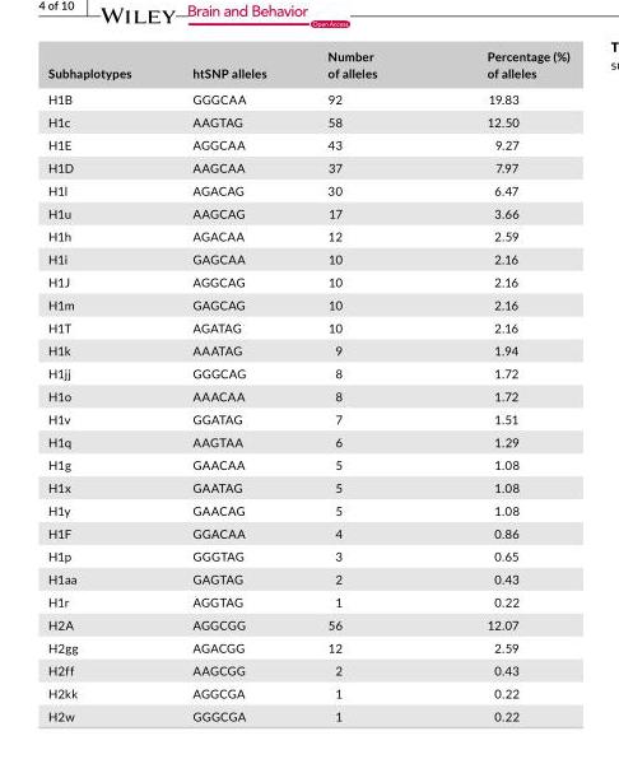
<table><thead><tr><td>Subhaplotypes</td><td>htSNP alleles</td><td>Number of alleles</td><td>Percentage (%) of alleles</td></tr></thead><tbody><tr><td>H1B</td><td>GGGCAA</td><td>92</td><td>19.83</td></tr><tr><td>H1c</td><td>AAGTAG</td><td>58</td><td>12.50</td></tr><tr><td>H1E</td><td>AGGCAA</td><td>43</td><td>9.27</td></tr><tr><td>H1D</td><td>AAGCAA</td><td>37</td><td>7.97</td></tr><tr><td>H1l</td><td>AGACAG</td><td>30</td><td>6.47</td></tr><tr><td>H1u</td><td>AAGCAG</td><td>17</td><td>3.66</td></tr><tr><td>H1h</td><td>AGACAA</td><td>12</td><td>2.59</td></tr><tr><td>H1i</td><td>GAGCAA</td><td>10</td><td>2.16</td></tr><tr><td>H1J</td><td>AGGCAG</td><td>10</td><td>2.16</td></tr><tr><td>H1m</td><td>GAGCAG</td><td>10</td><td>2.16</td></tr><tr><td>H1T</td><td>AGATAG</td><td>10</td><td>2.16</td></tr><tr><td>H1k</td><td>AAATAG</td><td>9</td><td>1.94</td></tr><tr><td>H1jj</td><td>GGGCAG</td><td>8</td><td>1.72</td></tr><tr><td>H1o</td><td>AAACAA</td><td>8</td><td>1.72</td></tr><tr><td>H1v</td><td>GGATAG</td><td>7</td><td>1.51</td></tr><tr><td>H1q</td><td>AAGTAA</td><td>6</td><td>1.29</td></tr><tr><td>H1g</td><td>GAACAA</td><td>5</td><td>1.08</td></tr><tr><td>H1x</td><td>GAATAG</td><td>5</td><td>1.08</td></tr><tr><td>H1y</td><td>GAACAG</td><td>5</td><td>1.08</td></tr><tr><td>H1F</td><td>GGACAA</td><td>4</td><td>0.86</td></tr><tr><td>H1p</td><td>GGGTAG</td><td>3</td><td>0.65</td></tr><tr><td>H1aa</td><td>GAGTAG</td><td>2</td><td>0.43</td></tr><tr><td>H1r</td><td>AGGTAG</td><td>1</td><td>0.22</td></tr><tr><td>H2A</td><td>AGGCGG</td><td>56</td><td>12.07</td></tr><tr><td>H2gg</td><td>AGACGG</td><td>12</td><td>2.59</td></tr><tr><td>H2ff</td><td>AAGCGG</td><td>2</td><td>0.43</td></tr><tr><td>H2kk</td><td>AGGCGA</td><td>1</td><td>0.22</td></tr><tr><td>H2w</td><td>GGGCGA</td><td>1</td><td>0.22</td></tr></tbody></table>